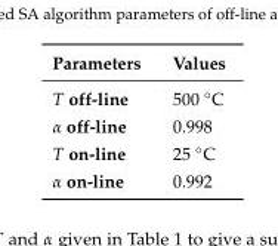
<table><thead><tr><td>Parameters</td><td>Values</td></tr></thead><tbody><tr><td>T off-line</td><td>500 ◦C</td></tr><tr><td>α off-line</td><td>0.998</td></tr><tr><td>T on-line</td><td>25 ◦C</td></tr><tr><td>α on-line</td><td>0.992</td></tr></tbody></table>